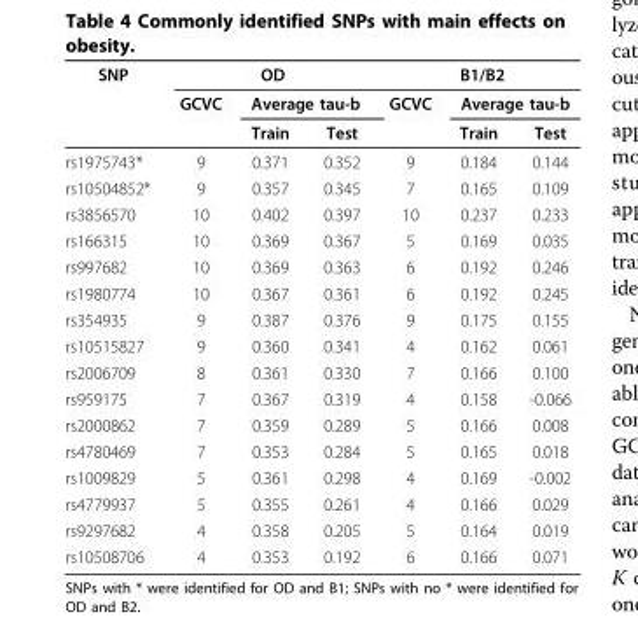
<table><thead><tr><td rowspan="3">SNP</td><td colspan="3">OD</td><td colspan="3">B1/B2</td></tr><tr><td rowspan="2">GCVC</td><td colspan="2">Average tau-b</td><td rowspan="2">GCVC</td><td colspan="2">Average tau-b</td></tr><tr><td>Train</td><td>Test</td><td>Train</td><td>Test</td></tr></thead><tbody><tr><td>rs1975743*</td><td>9</td><td>0.371</td><td>0.352</td><td>9</td><td>0.184</td><td>0.144</td></tr><tr><td>rs10504852*</td><td>9</td><td>0.357</td><td>0.345</td><td>7</td><td>0.165</td><td>0.109</td></tr><tr><td>rs3856570</td><td>10</td><td>0.402</td><td>0.397</td><td>10</td><td>0.237</td><td>0.233</td></tr><tr><td>rs166315</td><td>10</td><td>0.369</td><td>0.367</td><td>5</td><td>0.169</td><td>0.035</td></tr><tr><td>rs997682</td><td>10</td><td>0.369</td><td>0.363</td><td>6</td><td>0.192</td><td>0.246</td></tr><tr><td>rs1980774</td><td>10</td><td>0.367</td><td>0.361</td><td>6</td><td>0.192</td><td>0.245</td></tr><tr><td>rs354935</td><td>9</td><td>0.387</td><td>0.376</td><td>9</td><td>0.175</td><td>0.155</td></tr><tr><td>rs10515827</td><td>9</td><td>0.360</td><td>0.341</td><td>4</td><td>0.162</td><td>0.061</td></tr><tr><td>rs2006709</td><td>8</td><td>0.361</td><td>0.330</td><td>7</td><td>0.166</td><td>0.100</td></tr><tr><td>rs959175</td><td>7</td><td>0.367</td><td>0.319</td><td>4</td><td>0.158</td><td>-0.066</td></tr><tr><td>rs2000862</td><td>7</td><td>0.359</td><td>0.289</td><td>5</td><td>0.166</td><td>0.008</td></tr><tr><td>rs4780469</td><td>7</td><td>0.353</td><td>0.284</td><td>5</td><td>0.165</td><td>0.018</td></tr><tr><td>rs1009829</td><td>5</td><td>0.361</td><td>0.298</td><td>4</td><td>0.169</td><td>-0.002</td></tr><tr><td>rs4779937</td><td>5</td><td>0.355</td><td>0.261</td><td>4</td><td>0.166</td><td>0.029</td></tr><tr><td>rs9297682</td><td>4</td><td>0.358</td><td>0.205</td><td>5</td><td>0.164</td><td>0.019</td></tr><tr><td>rs10508706</td><td>4</td><td>0.353</td><td>0.192</td><td>6</td><td>0.166</td><td>0.071</td></tr></tbody></table>